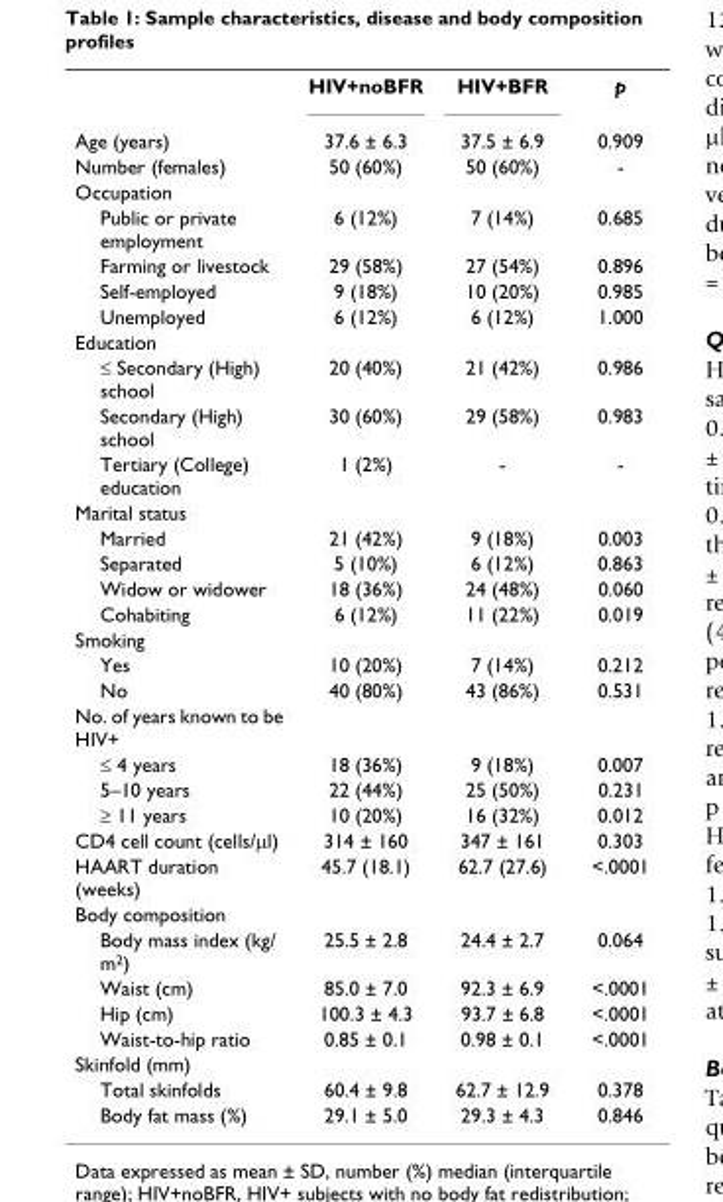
<table><thead><tr><td></td><td>HIV+noBFR</td><td>HIV+BFR</td><td>p</td></tr></thead><tbody><tr><td>Age (years)</td><td>37.6 ± 6.3</td><td>37.5 ± 6.9</td><td>0.909</td></tr><tr><td>Number (females)</td><td>50 (60%)</td><td>50 (60%)</td><td>-</td></tr><tr><td colspan="4">Occupation</td></tr><tr><td>Public or private employment</td><td>6 (12%)</td><td>7 (14%)</td><td>0.685</td></tr><tr><td>Farming or livestock</td><td>29 (58%)</td><td>27 (54%)</td><td>0.896</td></tr><tr><td>Self-employed</td><td>9 (18%)</td><td>10 (20%)</td><td>0.985</td></tr><tr><td>Unemployed</td><td>6 (12%)</td><td>6 (12%)</td><td>1.000</td></tr><tr><td colspan="4">Education</td></tr><tr><td>≤ Secondary (High) school</td><td>20 (40%)</td><td>21 (42%)</td><td>0.986</td></tr><tr><td>Secondary (High) school</td><td>30 (60%)</td><td>29 (58%)</td><td>0.983</td></tr><tr><td>Tertiary (College) education</td><td>1 (2%)</td><td>-</td><td>-</td></tr><tr><td colspan="4">Marital status</td></tr><tr><td>Married</td><td>21 (42%)</td><td>9 (18%)</td><td>0.003</td></tr><tr><td>Separated</td><td>5 (10%)</td><td>6 (12%)</td><td>0.863</td></tr><tr><td>Widow or widower</td><td>18 (36%)</td><td>24 (48%)</td><td>0.060</td></tr><tr><td>Cohabiting</td><td>6 (12%)</td><td>11 (22%)</td><td>0.019</td></tr><tr><td colspan="4">Smoking</td></tr><tr><td>Yes</td><td>10 (20%)</td><td>7 (14%)</td><td>0.212</td></tr><tr><td>No</td><td>40 (80%)</td><td>43 (86%)</td><td>0.531</td></tr><tr><td colspan="4">No. of years known to be HIV+</td></tr><tr><td>≤ 4 years</td><td>18 (36%)</td><td>9 (18%)</td><td>0.007</td></tr><tr><td>5–10 years</td><td>22 (44%)</td><td>25 (50%)</td><td>0.231</td></tr><tr><td>≥ 11 years</td><td>10 (20%)</td><td>16 (32%)</td><td>0.012</td></tr><tr><td>CD4 cell count (cells/µl)</td><td>314 ± 160</td><td>347 ± 161</td><td>0.303</td></tr><tr><td>HAART duration (weeks)</td><td>45.7 (18.1)</td><td>62.7 (27.6)</td><td>&lt;.0001</td></tr><tr><td colspan="4">Body composition</td></tr><tr><td>Body mass index (kg/ m<sup>2</sup>)</td><td>25.5 ± 2.8</td><td>24.4 ± 2.7</td><td>0.064</td></tr><tr><td>Waist (cm)</td><td>85.0 ± 7.0</td><td>92.3 ± 6.9</td><td>&lt;.0001</td></tr><tr><td>Hip (cm)</td><td>100.3 ± 4.3</td><td>93.7 ± 6.8</td><td>&lt;.0001</td></tr><tr><td>Waist-to-hip ratio</td><td>0.85 ± 0.1</td><td>0.98 ± 0.1</td><td>&lt;.0001</td></tr><tr><td colspan="4">Skinfold (mm)</td></tr><tr><td>Total skinfolds</td><td>60.4 ± 9.8</td><td>62.7 ± 12.9</td><td>0.378</td></tr><tr><td>Body fat mass (%)</td><td>29.1 ± 5.0</td><td>29.3 ± 4.3</td><td>0.846</td></tr></tbody></table>